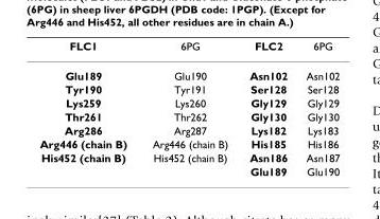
<table><thead><tr><td>FLC1</td><td>6PG</td><td>FLC2</td><td>6PG</td></tr></thead><tbody><tr><td>Glu189</td><td>Glu190</td><td>Asn102</td><td>Asn102</td></tr><tr><td>Tyr190</td><td>Tyr191</td><td>Ser128</td><td>Ser128</td></tr><tr><td>Lys259</td><td>Lys260</td><td>Gly129</td><td>Gly129</td></tr><tr><td>Thr261</td><td>Thr262</td><td>Gly130</td><td>Gly130</td></tr><tr><td>Arg286</td><td>Arg287</td><td>Lys182</td><td>Lys183</td></tr><tr><td>Arg446 (chain B)</td><td>Arg446 (chain B)</td><td>His185</td><td>His186</td></tr><tr><td rowspan="2">His452 (chain B)</td><td>His452 (chain B)</td><td>Asn186</td><td>Asn187</td></tr><tr><td></td><td>Glu189</td><td>Glu190</td></tr></tbody></table>